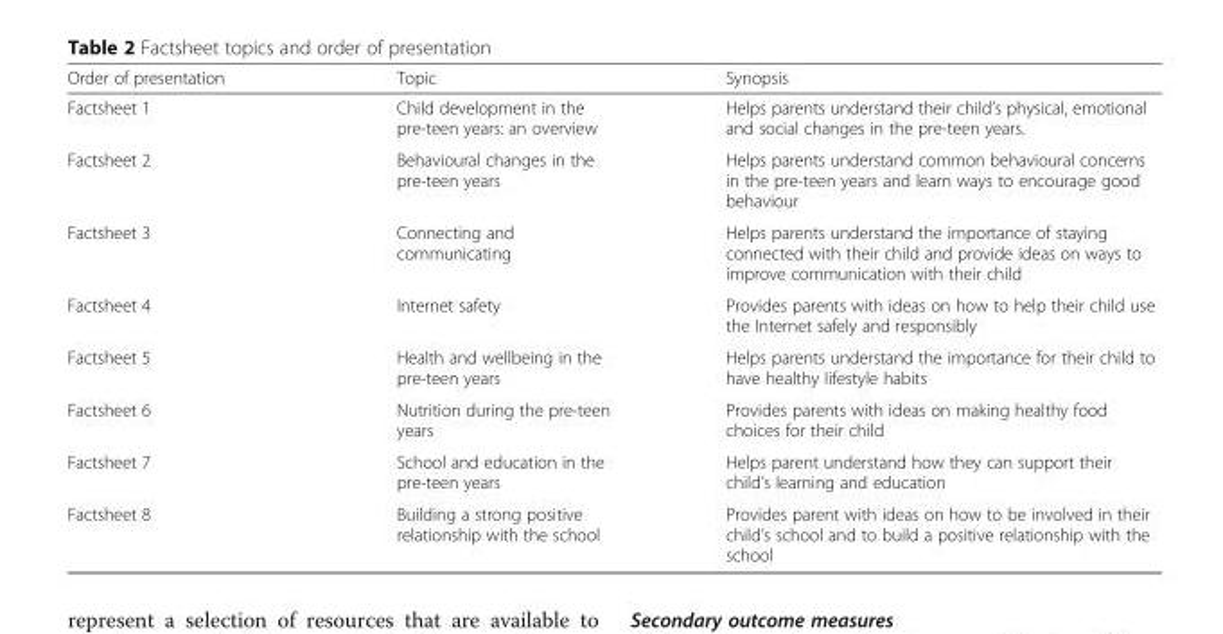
<table><thead><tr><td>Order of presentation</td><td>Topic</td><td>Synopsis</td></tr></thead><tbody><tr><td>Factsheet 1</td><td>Child development in the pre-teen years: an overview</td><td>Helps parents understand their child’s physical, emotional and social changes in the pre-teen years.</td></tr><tr><td>Factsheet 2</td><td>Behavioural changes in the pre-teen years</td><td>Helps parents understand common behavioural concerns in the pre-teen years and learn ways to encourage good behaviour</td></tr><tr><td>Factsheet 3</td><td>Connecting and communicating</td><td>Helps parents understand the importance of staying connected with their child and provide ideas on ways to improve communication with their child</td></tr><tr><td>Factsheet 4</td><td>Internet safety</td><td>Provides parents with ideas on how to help their child use the Internet safely and responsibly</td></tr><tr><td>Factsheet 5</td><td>Health and wellbeing in the pre-teen years</td><td>Helps parents understand the importance for their child to have healthy lifestyle habits</td></tr><tr><td>Factsheet 6</td><td>Nutrition during the pre-teen years</td><td>Provides parents with ideas on making healthy food choices for their child</td></tr><tr><td>Factsheet 7</td><td>School and education in the pre-teen years</td><td>Helps parent understand how they can support their child’s learning and education</td></tr><tr><td>Factsheet 8</td><td>Building a strong positive relationship with the school</td><td>Provides parent with ideas on how to be involved in their child’s school and to build a positive relationship with the school</td></tr></tbody></table>